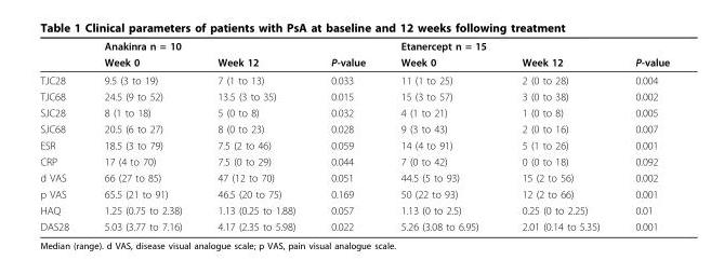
<table><thead><tr><td rowspan="2"></td><td rowspan="2">Anakinra n = 10 Week 0</td><td rowspan="2">Week 12</td><td rowspan="2">P-value</td><td rowspan="2">Etanercept n = 15 Week 0</td><td rowspan="2">Week 12</td><td rowspan="2">P-value</td></tr><tr></tr></thead><tbody><tr><td>TJC28</td><td>9.5 (3 to 19)</td><td>7 (1 to 13)</td><td>0.033</td><td>11 (1 to 25)</td><td>2 (0 to 28)</td><td>0.004</td></tr><tr><td>TJC68</td><td>24.5 (9 to 52)</td><td>13.5 (3 to 35)</td><td>0.015</td><td>15 (3 to 57)</td><td>3 (0 to 38)</td><td>0.002</td></tr><tr><td>SJC28</td><td>8 (1 to 18)</td><td>5 (0 to 8)</td><td>0.032</td><td>4 (1 to 21)</td><td>1 (0 to 8)</td><td>0.005</td></tr><tr><td>SJC68</td><td>20.5 (6 to 27)</td><td>8 (0 to 23)</td><td>0.028</td><td>9 (3 to 43)</td><td>2 (0 to 16)</td><td>0.007</td></tr><tr><td>ESR</td><td>18.5 (3 to 79)</td><td>7.5 (2 to 46)</td><td>0.059</td><td>14 (4 to 91)</td><td>5 (1 to 26)</td><td>0.001</td></tr><tr><td>CRP</td><td>17 (4 to 70)</td><td>7.5 (0 to 29)</td><td>0.044</td><td>7 (0 to 42)</td><td>0 (0 to 18)</td><td>0.092</td></tr><tr><td>d VAS</td><td>66 (27 to 85)</td><td>47 (12 to 70)</td><td>0.051</td><td>44.5 (5 to 93)</td><td>15 (2 to 56)</td><td>0.002</td></tr><tr><td>p VAS</td><td>65.5 (21 to 91)</td><td>46.5 (20 to 75)</td><td>0.169</td><td>50 (22 to 93)</td><td>12 (2 to 66)</td><td>0.001</td></tr><tr><td>HAQ</td><td>1.25 (0.75 to 2.38)</td><td>1.13 (0.25 to 1.88)</td><td>0.057</td><td>1.13 (0 to 2.5)</td><td>0.25 (0 to 2.25)</td><td>0.01</td></tr><tr><td>DAS28</td><td>5.03 (3.77 to 7.16)</td><td>4.17 (2.35 to 5.98)</td><td>0.022</td><td>5.26 (3.08 to 6.95)</td><td>2.01 (0.14 to 5.35)</td><td>0.001</td></tr></tbody></table>